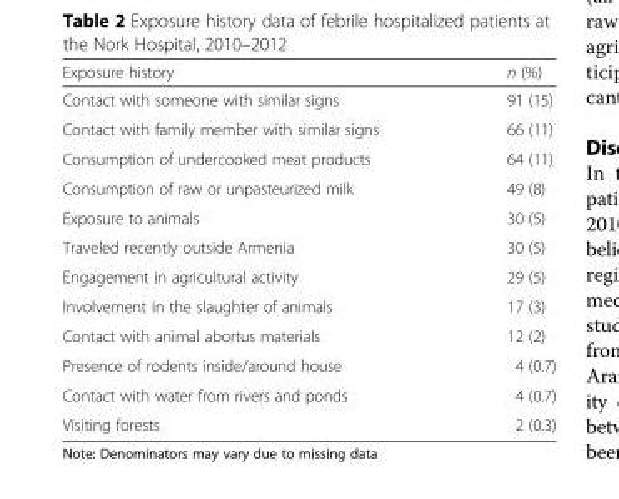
<table><thead><tr><td>Exposure history</td><td>n (%)</td></tr></thead><tbody><tr><td>Contact with someone with similar signs</td><td>91 (15)</td></tr><tr><td>Contact with family member with similar signs</td><td>66 (11)</td></tr><tr><td>Consumption of undercooked meat products</td><td>64 (11)</td></tr><tr><td>Consumption of raw or unpasteurized milk</td><td>49 (8)</td></tr><tr><td>Exposure to animals</td><td>30 (5)</td></tr><tr><td>Traveled recently outside Armenia</td><td>30 (5)</td></tr><tr><td>Engagement in agricultural activity</td><td>29 (5)</td></tr><tr><td>Involvement in the slaughter of animals</td><td>17 (3)</td></tr><tr><td>Contact with animal abortus materials</td><td>12 (2)</td></tr><tr><td>Presence of rodents inside/around house</td><td>4 (0.7)</td></tr><tr><td>Contact with water from rivers and ponds</td><td>4 (0.7)</td></tr><tr><td>Visiting forests</td><td>2 (0.3)</td></tr></tbody></table>